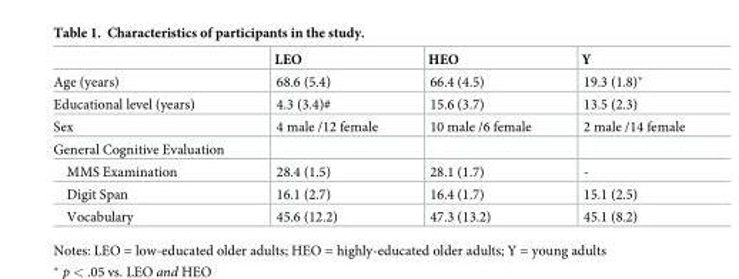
<table><thead><tr><td></td><td>LEO</td><td>HEO</td><td>Y</td></tr></thead><tbody><tr><td>Age (years)</td><td>68.6 (5.4)</td><td>66.4 (4.5)</td><td>19.3 (1.8)*</td></tr><tr><td>Educational level (years)</td><td>4.3 (3.4)#</td><td>15.6 (3.7)</td><td>13.5 (2.3)</td></tr><tr><td>Sex</td><td>4 male /12 female</td><td>10 male /6 female</td><td>2 male /14 female</td></tr><tr><td colspan="4">General Cognitive Evaluation</td></tr><tr><td>MMS Examination</td><td>28.4 (1.5)</td><td>28.1 (1.7)</td><td>-</td></tr><tr><td>Digit Span</td><td>16.1 (2.7)</td><td>16.4 (1.7)</td><td>15.1 (2.5)</td></tr><tr><td>Vocabulary</td><td>45.6 (12.2)</td><td>47.3 (13.2)</td><td>45.1 (8.2)</td></tr></tbody></table>